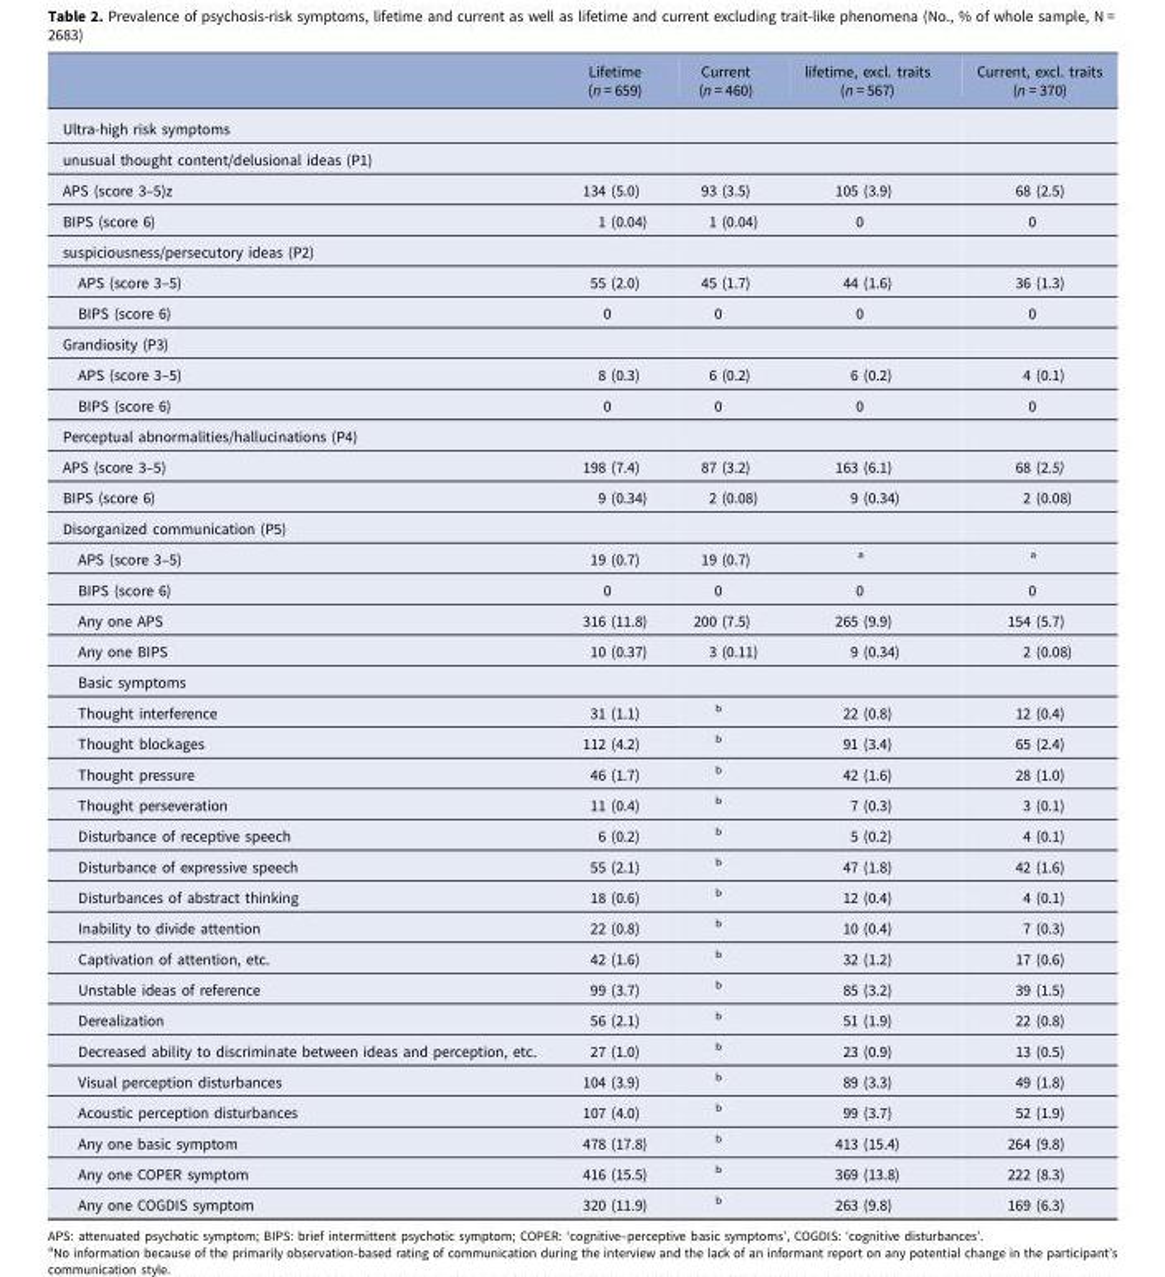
<table><thead><tr><td></td><td>Lifetime (n = 659)</td><td>Current (n = 460)</td><td>lifetime, excl. traits (n = 567)</td><td>Current, excl. traits (n = 370)</td></tr></thead><tbody><tr><td colspan="5">Ultra-high risk symptoms</td></tr><tr><td colspan="5">unusual thought content/delusional ideas (P1)</td></tr><tr><td>APS (score 3–5)z</td><td>134 (5.0)</td><td>93 (3.5)</td><td>105 (3.9)</td><td>68 (2.5)</td></tr><tr><td>BIPS (score 6)</td><td>1 (0.04)</td><td>1 (0.04)</td><td>0</td><td>0</td></tr><tr><td colspan="5">suspiciousness/persecutory ideas (P2)</td></tr><tr><td>APS (score 3–5)</td><td>55 (2.0)</td><td>45 (1.7)</td><td>44 (1.6)</td><td>36 (1.3)</td></tr><tr><td>BIPS (score 6)</td><td>0</td><td>0</td><td>0</td><td>0</td></tr><tr><td colspan="5">Grandiosity (P3)</td></tr><tr><td>APS (score 3–5)</td><td>8 (0.3)</td><td>6 (0.2)</td><td>6 (0.2)</td><td>4 (0.1)</td></tr><tr><td>BIPS (score 6)</td><td>0</td><td>0</td><td>0</td><td>0</td></tr><tr><td colspan="5">Perceptual abnormalities/hallucinations (P4)</td></tr><tr><td>APS (score 3–5)</td><td>198 (7.4)</td><td>87 (3.2)</td><td>163 (6.1)</td><td>68 (2.5)</td></tr><tr><td>BIPS (score 6)</td><td>9 (0.34)</td><td>2 (0.08)</td><td>9 (0.34)</td><td>2 (0.08)</td></tr><tr><td colspan="5">Disorganized communication (P5)</td></tr><tr><td>APS (score 3–5)</td><td>19 (0.7)</td><td>19 (0.7)</td><td><sup>a</sup></td><td><sup>a</sup></td></tr><tr><td>BIPS (score 6)</td><td>0</td><td>0</td><td>0</td><td>0</td></tr><tr><td>Any one APS</td><td>316 (11.8)</td><td>200 (7.5)</td><td>265 (9.9)</td><td>154 (5.7)</td></tr><tr><td>Any one BIPS</td><td>10 (0.37)</td><td>3 (0.11)</td><td>9 (0.34)</td><td>2 (0.08)</td></tr><tr><td colspan="5">Basic symptoms</td></tr><tr><td>Thought interference</td><td>31 (1.1)</td><td><sup>b</sup></td><td>22 (0.8)</td><td>12 (0.4)</td></tr><tr><td>Thought blockages</td><td>112 (4.2)</td><td><sup>b</sup></td><td>91 (3.4)</td><td>65 (2.4)</td></tr><tr><td>Thought pressure</td><td>46 (1.7)</td><td><sup>b</sup></td><td>42 (1.6)</td><td>28 (1.0)</td></tr><tr><td>Thought perseveration</td><td>11 (0.4)</td><td><sup>b</sup></td><td>7 (0.3)</td><td>3 (0.1)</td></tr><tr><td>Disturbance of receptive speech</td><td>6 (0.2)</td><td><sup>b</sup></td><td>5 (0.2)</td><td>4 (0.1)</td></tr><tr><td>Disturbance of expressive speech</td><td>55 (2.1)</td><td><sup>b</sup></td><td>47 (1.8)</td><td>42 (1.6)</td></tr><tr><td>Disturbances of abstract thinking</td><td>18 (0.6)</td><td><sup>b</sup></td><td>12 (0.4)</td><td>4 (0.1)</td></tr><tr><td>Inability to divide attention</td><td>22 (0.8)</td><td><sup>b</sup></td><td>10 (0.4)</td><td>7 (0.3)</td></tr><tr><td>Captivation of attention, etc.</td><td>42 (1.6)</td><td><sup>b</sup></td><td>32 (1.2)</td><td>17 (0.6)</td></tr><tr><td>Unstable ideas of reference</td><td>99 (3.7)</td><td><sup>b</sup></td><td>85 (3.2)</td><td>39 (1.5)</td></tr><tr><td>Derealization</td><td>56 (2.1)</td><td><sup>b</sup></td><td>51 (1.9)</td><td>22 (0.8)</td></tr><tr><td>Decreased ability to discriminate between ideas and perception, etc.</td><td>27 (1.0)</td><td><sup>b</sup></td><td>23 (0.9)</td><td>13 (0.5)</td></tr><tr><td>Visual perception disturbances</td><td>104 (3.9)</td><td><sup>b</sup></td><td>89 (3.3)</td><td>49 (1.8)</td></tr><tr><td>Acoustic perception disturbances</td><td>107 (4.0)</td><td><sup>b</sup></td><td>99 (3.7)</td><td>52 (1.9)</td></tr><tr><td>Any one basic symptom</td><td>478 (17.8)</td><td><sup>b</sup></td><td>413 (15.4)</td><td>264 (9.8)</td></tr><tr><td>Any one COPER symptom</td><td>416 (15.5)</td><td><sup>b</sup></td><td>369 (13.8)</td><td>222 (8.3)</td></tr><tr><td>Any one COGDIS symptom</td><td>320 (11.9)</td><td><sup>b</sup></td><td>263 (9.8)</td><td>169 (6.3)</td></tr></tbody></table>